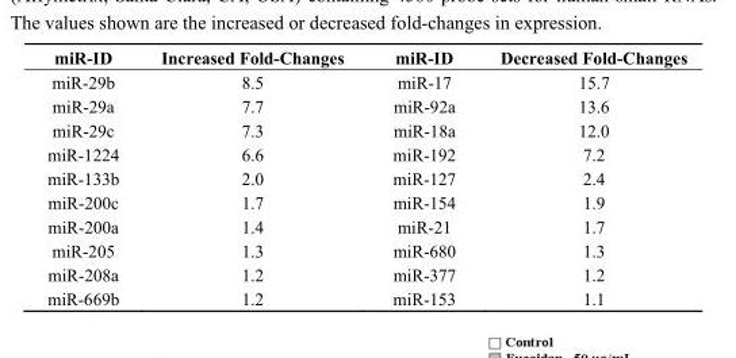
<table><thead><tr><td>miR-ID</td><td>Increased Fold-Changes</td><td>miR-ID</td><td>Decreased Fold-Changes</td></tr></thead><tbody><tr><td>miR-29b</td><td>8.5</td><td>miR-17</td><td>15.7</td></tr><tr><td>miR-29a</td><td>7.7</td><td>miR-92a</td><td>13.6</td></tr><tr><td>miR-29c</td><td>7.3</td><td>miR-18a</td><td>12.0</td></tr><tr><td>miR-1224</td><td>6.6</td><td>miR-192</td><td>7.2</td></tr><tr><td>miR-133b</td><td>2.0</td><td>miR-127</td><td>2.4</td></tr><tr><td>miR-200c</td><td>1.7</td><td>miR-154</td><td>1.9</td></tr><tr><td>miR-200a</td><td>1.4</td><td>miR-21</td><td>1.7</td></tr><tr><td>miR-205</td><td>1.3</td><td>miR-680</td><td>1.3</td></tr><tr><td>miR-208a</td><td>1.2</td><td>miR-377</td><td>1.2</td></tr><tr><td>miR-669b</td><td>1.2</td><td>miR-153</td><td>1.1</td></tr></tbody></table>